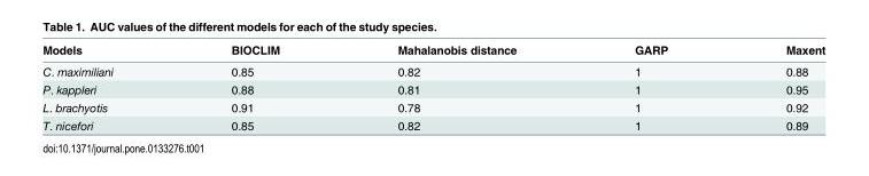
<table><thead><tr><td>Models</td><td>BIOCLIM</td><td>Mahalanobis distance</td><td>GARP</td><td>Maxent</td></tr></thead><tbody><tr><td>C. maximiliani</td><td>0.85</td><td>0.82</td><td>1</td><td>0.88</td></tr><tr><td>P. kappleri</td><td>0.88</td><td>0.81</td><td>1</td><td>0.95</td></tr><tr><td>L. brachyotis</td><td>0.91</td><td>0.78</td><td>1</td><td>0.92</td></tr><tr><td>T. nicefori</td><td>0.85</td><td>0.82</td><td>1</td><td>0.89</td></tr></tbody></table>